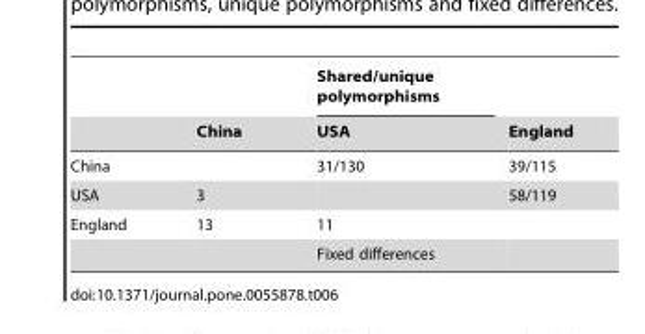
<table><thead><tr><td rowspan="2"></td><td rowspan="2">China</td><td rowspan="2">Shared/unique polymorphisms USA</td><td rowspan="2">England</td></tr><tr></tr></thead><tbody><tr><td>China</td><td></td><td>31/130</td><td>39/115</td></tr><tr><td>USA</td><td>3</td><td></td><td>58/119</td></tr><tr><td rowspan="2">England</td><td>13</td><td>11</td><td></td></tr><tr><td></td><td>Fixed differences</td><td></td></tr></tbody></table>